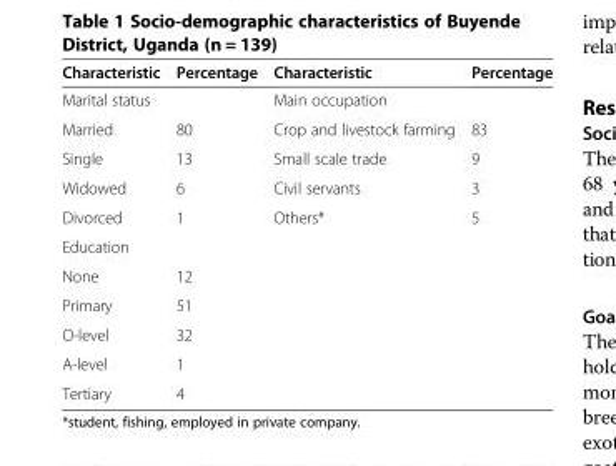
<table><thead><tr><td>Characteristic</td><td>Percentage</td><td>Characteristic</td><td>Percentage</td></tr></thead><tbody><tr><td>Marital status</td><td></td><td>Main occupation</td><td></td></tr><tr><td>Married</td><td>80</td><td>Crop and livestock farming</td><td>83</td></tr><tr><td>Single</td><td>13</td><td>Small scale trade</td><td>9</td></tr><tr><td>Widowed</td><td>6</td><td>Civil servants</td><td>3</td></tr><tr><td>Divorced</td><td>1</td><td>Others*</td><td>5</td></tr><tr><td colspan="4">Education</td></tr><tr><td>None</td><td>12</td><td></td><td></td></tr><tr><td>Primary</td><td>51</td><td></td><td></td></tr><tr><td>O-level</td><td>32</td><td></td><td></td></tr><tr><td>A-level</td><td>1</td><td></td><td></td></tr><tr><td>Tertiary</td><td>4</td><td></td><td></td></tr></tbody></table>